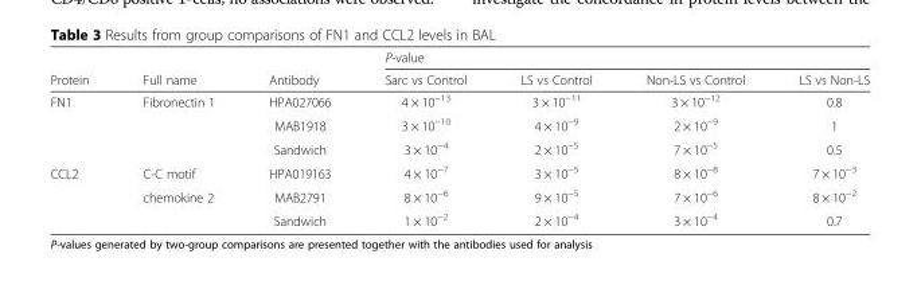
<table><thead><tr><td rowspan="2">Protein</td><td rowspan="2">Full name</td><td rowspan="2">Antibody</td><td colspan="4">P-value</td></tr><tr><td>Sarc vs Control</td><td>LS vs Control</td><td>Non-LS vs Control</td><td>LS vs Non-LS</td></tr></thead><tbody><tr><td rowspan="3">FN1</td><td>Fibronectin 1</td><td>HPA027066</td><td>4 × 10<sup>−13</sup></td><td>3 × 10<sup>−11</sup></td><td>3 × 10<sup>−12</sup></td><td>0.8</td></tr><tr><td></td><td>MAB1918</td><td>3 × 10<sup>−10</sup></td><td>4 × 10<sup>−9</sup></td><td>2 × 10<sup>−9</sup></td><td>1</td></tr><tr><td></td><td>Sandwich</td><td>3 × 10<sup>−4</sup></td><td>2 × 10<sup>−5</sup></td><td>7 × 10<sup>−5</sup></td><td>0.5</td></tr><tr><td rowspan="3">CCL2</td><td>C-C motif</td><td>HPA019163</td><td>4 × 10<sup>−7</sup></td><td>3 × 10<sup>−5</sup></td><td>8 × 10<sup>−8</sup></td><td>7 × 10<sup>−3</sup></td></tr><tr><td>chemokine 2</td><td>MAB2791</td><td>8 × 10<sup>−6</sup></td><td>9 × 10<sup>−5</sup></td><td>7 × 10<sup>−6</sup></td><td>8 × 10<sup>−2</sup></td></tr><tr><td></td><td>Sandwich</td><td>1 × 10<sup>−2</sup></td><td>2 × 10<sup>−4</sup></td><td>3 × 10<sup>−4</sup></td><td>0.7</td></tr></tbody></table>